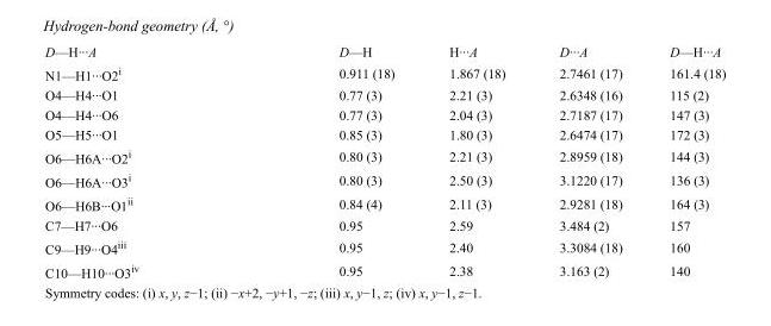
<table><tbody><tr><td>D—H···A</td><td>D—H</td><td>H···A</td><td>D···A</td><td>D—H···A</td></tr><tr><td>N1—H1···O2<sup>i</sup></td><td>0.911 (18)</td><td>1.867 (18)</td><td>2.7461 (17)</td><td>161.4 (18)</td></tr><tr><td>O4—H4···O1</td><td>0.77 (3)</td><td>2.21 (3)</td><td>2.6348 (16)</td><td>115 (2)</td></tr><tr><td>O4—H4···O6</td><td>0.77 (3)</td><td>2.04 (3)</td><td>2.7187 (17)</td><td>147 (3)</td></tr><tr><td>O5—H5···O1</td><td>0.85 (3)</td><td>1.80 (3)</td><td>2.6474 (17)</td><td>172 (3)</td></tr><tr><td>O6—H6A···O2<sup>i</sup></td><td>0.80 (3)</td><td>2.21 (3)</td><td>2.8959 (18)</td><td>144 (3)</td></tr><tr><td>O6—H6A···O3<sup>i</sup></td><td>0.80 (3)</td><td>2.50 (3)</td><td>3.1220 (17)</td><td>136 (3)</td></tr><tr><td>O6—H6B···O1<sup>ii</sup></td><td>0.84 (4)</td><td>2.11 (3)</td><td>2.9281 (18)</td><td>164 (3)</td></tr><tr><td>C7—H7···O6</td><td>0.95</td><td>2.59</td><td>3.484 (2)</td><td>157</td></tr><tr><td>C9—H9···O4<sup>iii</sup></td><td>0.95</td><td>2.40</td><td>3.3084 (18)</td><td>160</td></tr><tr><td>C10—H10···O3<sup>iv</sup></td><td>0.95</td><td>2.38</td><td>3.163 (2)</td><td>140</td></tr></tbody></table>